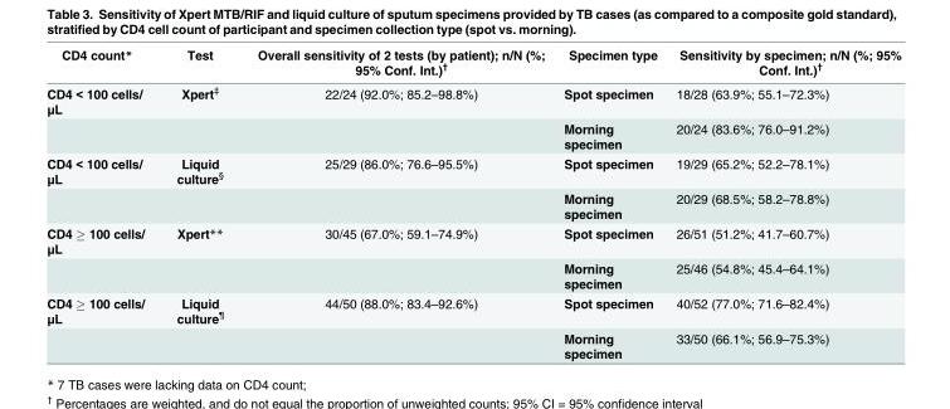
<table><thead><tr><td>CD4 count*</td><td>Test</td><td>Overall sensitivity of 2 tests (by patient); n/N (%; 95% Conf. Int.)<sup>†</sup></td><td>Specimen type</td><td>Sensitivity by specimen; n/N (%; 95% Conf. Int.)<sup>†</sup></td></tr></thead><tbody><tr><td rowspan="2">CD4 &lt; 100 cells/ μL</td><td>Xpert<sup>‡</sup></td><td>22/24 (92.0%; 85.2–98.8%)</td><td>Spot specimen</td><td>18/28 (63.9%; 55.1–72.3%)</td></tr><tr><td></td><td></td><td>Morning specimen</td><td>20/24 (83.6%; 76.0–91.2%)</td></tr><tr><td rowspan="2">CD4 &lt; 100 cells/ μL</td><td>Liquid culture<sup>§</sup></td><td>25/29 (86.0%; 76.6–95.5%)</td><td>Spot specimen</td><td>19/29 (65.2%; 52.2–78.1%)</td></tr><tr><td></td><td></td><td>Morning specimen</td><td>20/29 (68.5%; 58.2–78.8%)</td></tr><tr><td rowspan="2">CD4 ≥ 100 cells/ μL</td><td>Xpert**</td><td>30/45 (67.0%; 59.1–74.9%)</td><td>Spot specimen</td><td>26/51 (51.2%; 41.7–60.7%)</td></tr><tr><td></td><td></td><td>Morning specimen</td><td>25/46 (54.8%; 45.4–64.1%)</td></tr><tr><td rowspan="2">CD4 ≥ 100 cells/ μL</td><td>Liquid culture<sup>¶</sup></td><td>44/50 (88.0%; 83.4–92.6%)</td><td>Spot specimen</td><td>40/52 (77.0%; 71.6–82.4%)</td></tr><tr><td></td><td></td><td>Morning specimen</td><td>33/50 (66.1%; 56.9–75.3%)</td></tr></tbody></table>